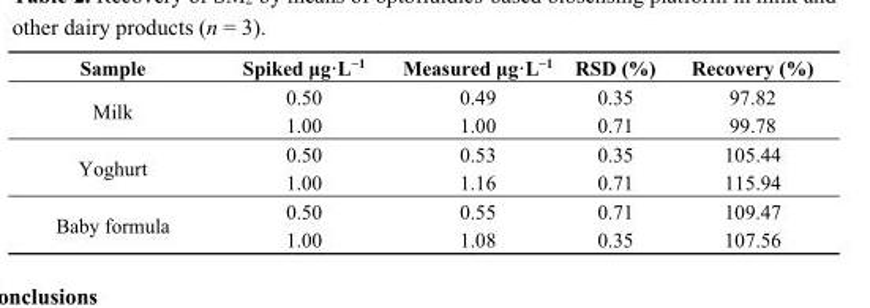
<table><thead><tr><td>Sample</td><td>Spiked μg·L<sup>−1</sup></td><td>Measured μg·L<sup>−1</sup></td><td>RSD (%)</td><td>Recovery (%)</td></tr></thead><tbody><tr><td rowspan="2">Milk</td><td>0.50</td><td>0.49</td><td>0.35</td><td>97.82</td></tr><tr><td>1.00</td><td>1.00</td><td>0.71</td><td>99.78</td></tr><tr><td rowspan="2">Yoghurt</td><td>0.50</td><td>0.53</td><td>0.35</td><td>105.44</td></tr><tr><td>1.00</td><td>1.16</td><td>0.71</td><td>115.94</td></tr><tr><td rowspan="2">Baby formula</td><td>0.50</td><td>0.55</td><td>0.71</td><td>109.47</td></tr><tr><td>1.00</td><td>1.08</td><td>0.35</td><td>107.56</td></tr></tbody></table>